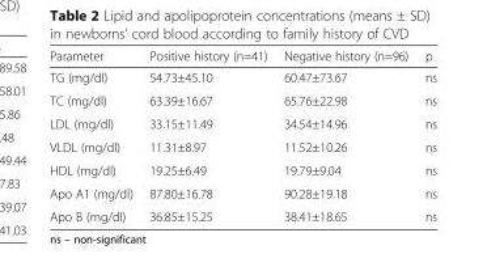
<table><thead><tr><td>Parameter</td><td>Positive history (n=41)</td><td>Negative history (n=96)</td><td>p</td></tr></thead><tbody><tr><td>TG (mg/dl)</td><td>54.73±45.10</td><td>60.47±73.67</td><td>ns</td></tr><tr><td>TC (mg/dl)</td><td>63.39±16.67</td><td>65.76±22.98</td><td>ns</td></tr><tr><td>LDL (mg/dl)</td><td>33.15±11.49</td><td>34.54±14.96</td><td>ns</td></tr><tr><td>VLDL (mg/dl)</td><td>11.31±8.97</td><td>11.52±10.26</td><td>ns</td></tr><tr><td>HDL (mg/dl)</td><td>19.25±6.49</td><td>19.79±9.04</td><td>ns</td></tr><tr><td>Apo A1 (mg/dl)</td><td>87.80±16.78</td><td>90.28±19.18</td><td>ns</td></tr><tr><td>Apo B (mg/dl)</td><td>36.85±15.25</td><td>38.41±18.65</td><td>ns</td></tr></tbody></table>